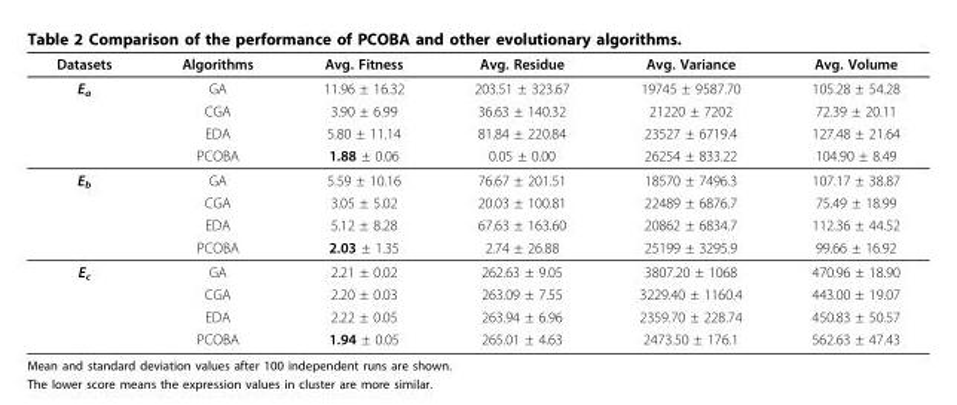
<table><thead><tr><td>Datasets</td><td>Algorithms</td><td>Avg. Fitness</td><td>Avg. Residue</td><td>Avg. Variance</td><td>Avg. Volume</td></tr></thead><tbody><tr><td rowspan="4">E<sub>a</sub></td><td>GA</td><td>11.96 ± 16.32</td><td>203.51 ± 323.67</td><td>19745 ± 9587.70</td><td>105.28 ± 54.28</td></tr><tr><td>CGA</td><td>3.90 ± 6.99</td><td>36.63 ± 140.32</td><td>21220 ± 7202</td><td>72.39 ± 20.11</td></tr><tr><td>EDA</td><td>5.80 ± 11.14</td><td>81.84 ± 220.84</td><td>23527 ± 6719.4</td><td>127.48 ± 21.64</td></tr><tr><td>PCOBA</td><td>1.88 ± 0.06</td><td>0.05 ± 0.00</td><td>26254 ± 833.22</td><td>104.90 ± 8.49</td></tr><tr><td rowspan="4">E<sub>b</sub></td><td>GA</td><td>5.59 ± 10.16</td><td>76.67 ± 201.51</td><td>18570 ± 7496.3</td><td>107.17 ± 38.87</td></tr><tr><td>CGA</td><td>3.05 ± 5.02</td><td>20.03 ± 100.81</td><td>22489 ± 6876.7</td><td>75.49 ± 18.99</td></tr><tr><td>EDA</td><td>5.12 ± 8.28</td><td>67.63 ± 163.60</td><td>20862 ± 6834.7</td><td>112.36 ± 44.52</td></tr><tr><td>PCOBA</td><td>2.03 ± 1.35</td><td>2.74 ± 26.88</td><td>25199 ± 3295.9</td><td>99.66 ± 16.92</td></tr><tr><td rowspan="4">E<sub>c</sub></td><td>GA</td><td>2.21 ± 0.02</td><td>262.63 ± 9.05</td><td>3807.20 ± 1068</td><td>470.96 ± 18.90</td></tr><tr><td>CGA</td><td>2.20 ± 0.03</td><td>263.09 ± 7.55</td><td>3229.40 ± 1160.4</td><td>443.00 ± 19.07</td></tr><tr><td>EDA</td><td>2.22 ± 0.05</td><td>263.94 ± 6.96</td><td>2359.70 ± 228.74</td><td>450.83 ± 50.57</td></tr><tr><td>PCOBA</td><td>1.94 ± 0.05</td><td>265.01 ± 4.63</td><td>2473.50 ± 176.1</td><td>562.63 ± 47.43</td></tr></tbody></table>